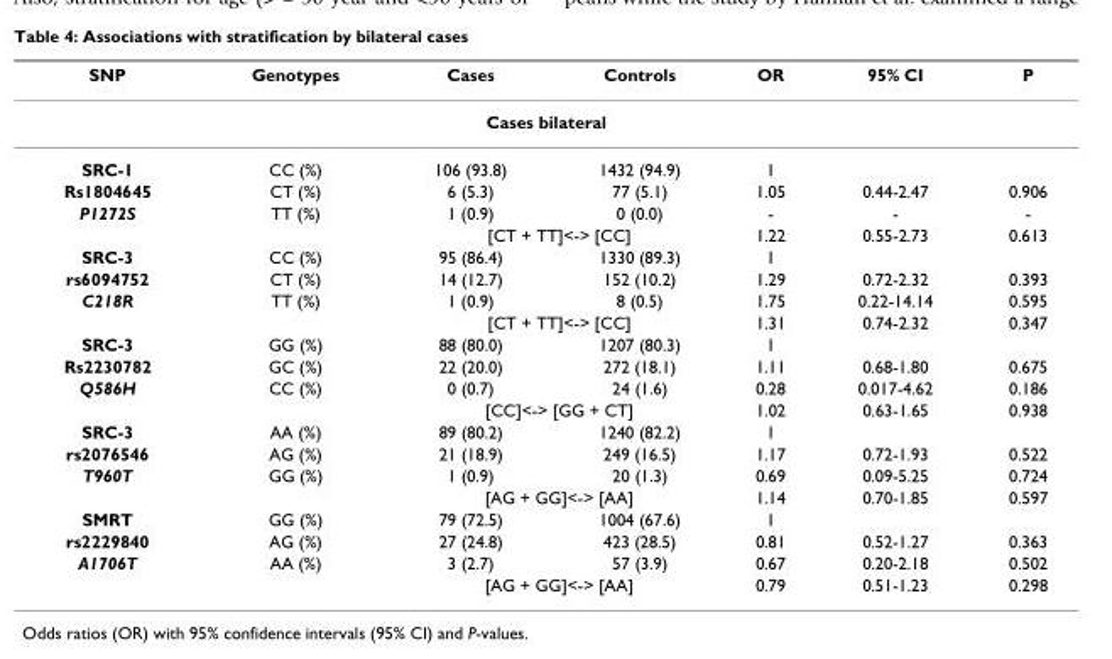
<table><thead><tr><td>SNP</td><td>Genotypes</td><td>Cases</td><td>Controls</td><td>OR</td><td>95% CI</td><td>P</td></tr></thead><tbody><tr><td colspan="7">Cases bilateral</td></tr><tr><td>SRC-1</td><td>CC (%)</td><td>106 (93.8)</td><td>1432 (94.9)</td><td>1</td><td></td><td></td></tr><tr><td>Rs1804645</td><td>CT (%)</td><td>6 (5.3)</td><td>77 (5.1)</td><td>1.05</td><td>0.44-2.47</td><td>0.906</td></tr><tr><td rowspan="2">P1272S</td><td>TT (%)</td><td>1 (0.9)</td><td>0 (0.0)</td><td>-</td><td>-</td><td>-</td></tr><tr><td></td><td colspan="2">[CT + TT]&lt;-&gt; [CC]</td><td>1.22</td><td>0.55-2.73</td><td>0.613</td></tr><tr><td>SRC-3</td><td>CC (%)</td><td>95 (86.4)</td><td>1330 (89.3)</td><td>1</td><td></td><td></td></tr><tr><td>rs6094752</td><td>CT (%)</td><td>14 (12.7)</td><td>152 (10.2)</td><td>1.29</td><td>0.72-2.32</td><td>0.393</td></tr><tr><td rowspan="2">C218R</td><td>TT (%)</td><td>1 (0.9)</td><td>8 (0.5)</td><td>1.75</td><td>0.22-14.14</td><td>0.595</td></tr><tr><td></td><td colspan="2">[CT + TT]&lt;-&gt; [CC]</td><td>1.31</td><td>0.74-2.32</td><td>0.347</td></tr><tr><td>SRC-3</td><td>GG (%)</td><td>88 (80.0)</td><td>1207 (80.3)</td><td>1</td><td></td><td></td></tr><tr><td>Rs2230782</td><td>GC (%)</td><td>22 (20.0)</td><td>272 (18.1)</td><td>1.11</td><td>0.68-1.80</td><td>0.675</td></tr><tr><td rowspan="2">Q586H</td><td>CC (%)</td><td>0 (0.7)</td><td>24 (1.6)</td><td>0.28</td><td>0.017-4.62</td><td>0.186</td></tr><tr><td></td><td colspan="2">[CC]&lt;-&gt; [GG + CT]</td><td>1.02</td><td>0.63-1.65</td><td>0.938</td></tr><tr><td>SRC-3</td><td>AA (%)</td><td>89 (80.2)</td><td>1240 (82.2)</td><td>1</td><td></td><td></td></tr><tr><td>rs2076546</td><td>AG (%)</td><td>21 (18.9)</td><td>249 (16.5)</td><td>1.17</td><td>0.72-1.93</td><td>0.522</td></tr><tr><td rowspan="2">T960T</td><td>GG (%)</td><td>1 (0.9)</td><td>20 (1.3)</td><td>0.69</td><td>0.09-5.25</td><td>0.724</td></tr><tr><td></td><td colspan="2">[AG + GG]&lt;-&gt; [AA]</td><td>1.14</td><td>0.70-1.85</td><td>0.597</td></tr><tr><td>SMRT</td><td>GG (%)</td><td>79 (72.5)</td><td>1004 (67.6)</td><td>1</td><td></td><td></td></tr><tr><td>rs2229840</td><td>AG (%)</td><td>27 (24.8)</td><td>423 (28.5)</td><td>0.81</td><td>0.52-1.27</td><td>0.363</td></tr><tr><td rowspan="2">A1706T</td><td>AA (%)</td><td>3 (2.7)</td><td>57 (3.9)</td><td>0.67</td><td>0.20-2.18</td><td>0.502</td></tr><tr><td></td><td colspan="2">[AG + GG]&lt;-&gt; [AA]</td><td>0.79</td><td>0.51-1.23</td><td>0.298</td></tr></tbody></table>